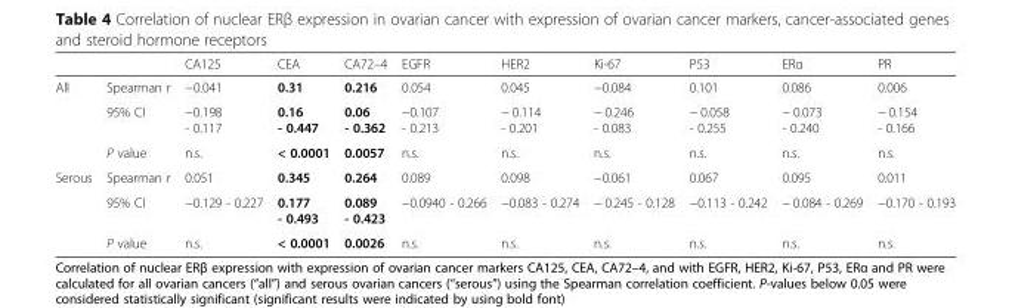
<table><thead><tr><td></td><td></td><td>CA125</td><td>CEA</td><td>CA72–4</td><td>EGFR</td><td>HER2</td><td>Ki-67</td><td>P53</td><td>ERα</td><td>PR</td></tr></thead><tbody><tr><td rowspan="3">All</td><td>Spearman r</td><td>−0.041</td><td>0.31</td><td>0.216</td><td>0.054</td><td>0.045</td><td>−0.084</td><td>0.101</td><td>0.086</td><td>0.006</td></tr><tr><td>95% CI</td><td>−0.198 - 0.117</td><td>0.16 - 0.447</td><td>0.06 - 0.362</td><td>−0.107 - 0.213</td><td>− 0.114 - 0.201</td><td>− 0.246 - 0.083</td><td>− 0.058 - 0.255</td><td>− 0.073 - 0.240</td><td>− 0.154 - 0.166</td></tr><tr><td>P value</td><td>n.s.</td><td>&lt; 0.0001</td><td>0.0057</td><td>n.s.</td><td>n.s.</td><td>n.s.</td><td>n.s.</td><td>n.s.</td><td>n.s.</td></tr><tr><td rowspan="3">Serous</td><td>Spearman r</td><td>0.051</td><td>0.345</td><td>0.264</td><td>0.089</td><td>0.098</td><td>−0.061</td><td>0.067</td><td>0.095</td><td>0.011</td></tr><tr><td>95% CI</td><td>−0.129 - 0.227</td><td>0.177 - 0.493</td><td>0.089 - 0.423</td><td>−0.0940 - 0.266</td><td>−0.083 - 0.274</td><td>− 0.245 - 0.128</td><td>−0.113 - 0.242</td><td>− 0.084 - 0.269</td><td>−0.170 - 0.193</td></tr><tr><td>P value</td><td>n.s.</td><td>&lt; 0.0001</td><td>0.0026</td><td>n.s.</td><td>n.s.</td><td>n.s.</td><td>n.s.</td><td>n.s.</td><td>n.s.</td></tr></tbody></table>